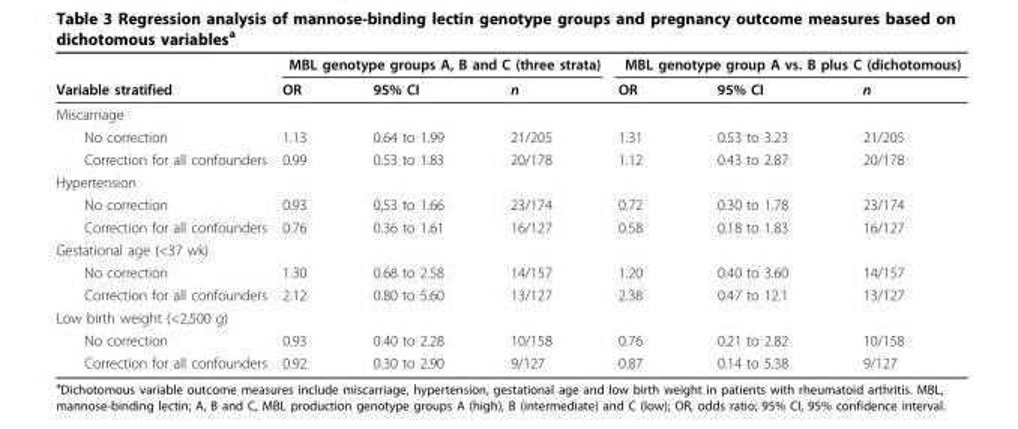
<table><thead><tr><td rowspan="2">Variable stratified</td><td colspan="3">MBL genotype groups A, B and C (three strata)</td><td colspan="3">MBL genotype group A vs. B plus C (dichotomous)</td></tr><tr><td>OR</td><td>95% CI</td><td>n</td><td>OR</td><td>95% CI</td><td>n</td></tr></thead><tbody><tr><td colspan="7">Miscarriage</td></tr><tr><td>No correction</td><td>1.13</td><td>0.64 to 1.99</td><td>21/205</td><td>1.31</td><td>0.53 to 3.23</td><td>21/205</td></tr><tr><td>Correction for all confounders</td><td>0.99</td><td>0.53 to 1.83</td><td>20/178</td><td>1.12</td><td>0.43 to 2.87</td><td>20/178</td></tr><tr><td colspan="7">Hypertension</td></tr><tr><td>No correction</td><td>0.93</td><td>0,53 to 1.66</td><td>23/174</td><td>0.72</td><td>0.30 to 1.78</td><td>23/174</td></tr><tr><td>Correction for all confounders</td><td>0.76</td><td>0.36 to 1.61</td><td>16/127</td><td>0.58</td><td>0.18 to 1.83</td><td>16/127</td></tr><tr><td colspan="7">Gestational age (&lt;37 wk)</td></tr><tr><td>No correction</td><td>1.30</td><td>0.68 to 2.58</td><td>14/157</td><td>1.20</td><td>0.40 to 3.60</td><td>14/157</td></tr><tr><td>Correction for all confounders</td><td>2.12</td><td>0.80 to 5.60</td><td>13/127</td><td>2.38</td><td>0.47 to 12.1</td><td>13/127</td></tr><tr><td colspan="7">Low birth weight (&lt;2,500 g)</td></tr><tr><td>No correction</td><td>0.93</td><td>0.40 to 2.28</td><td>10/158</td><td>0.76</td><td>0.21 to 2.82</td><td>10/158</td></tr><tr><td>Correction for all confounders</td><td>0.92</td><td>0.30 to 2.90</td><td>9/127</td><td>0.87</td><td>0.14 to 5.38</td><td>9/127</td></tr></tbody></table>